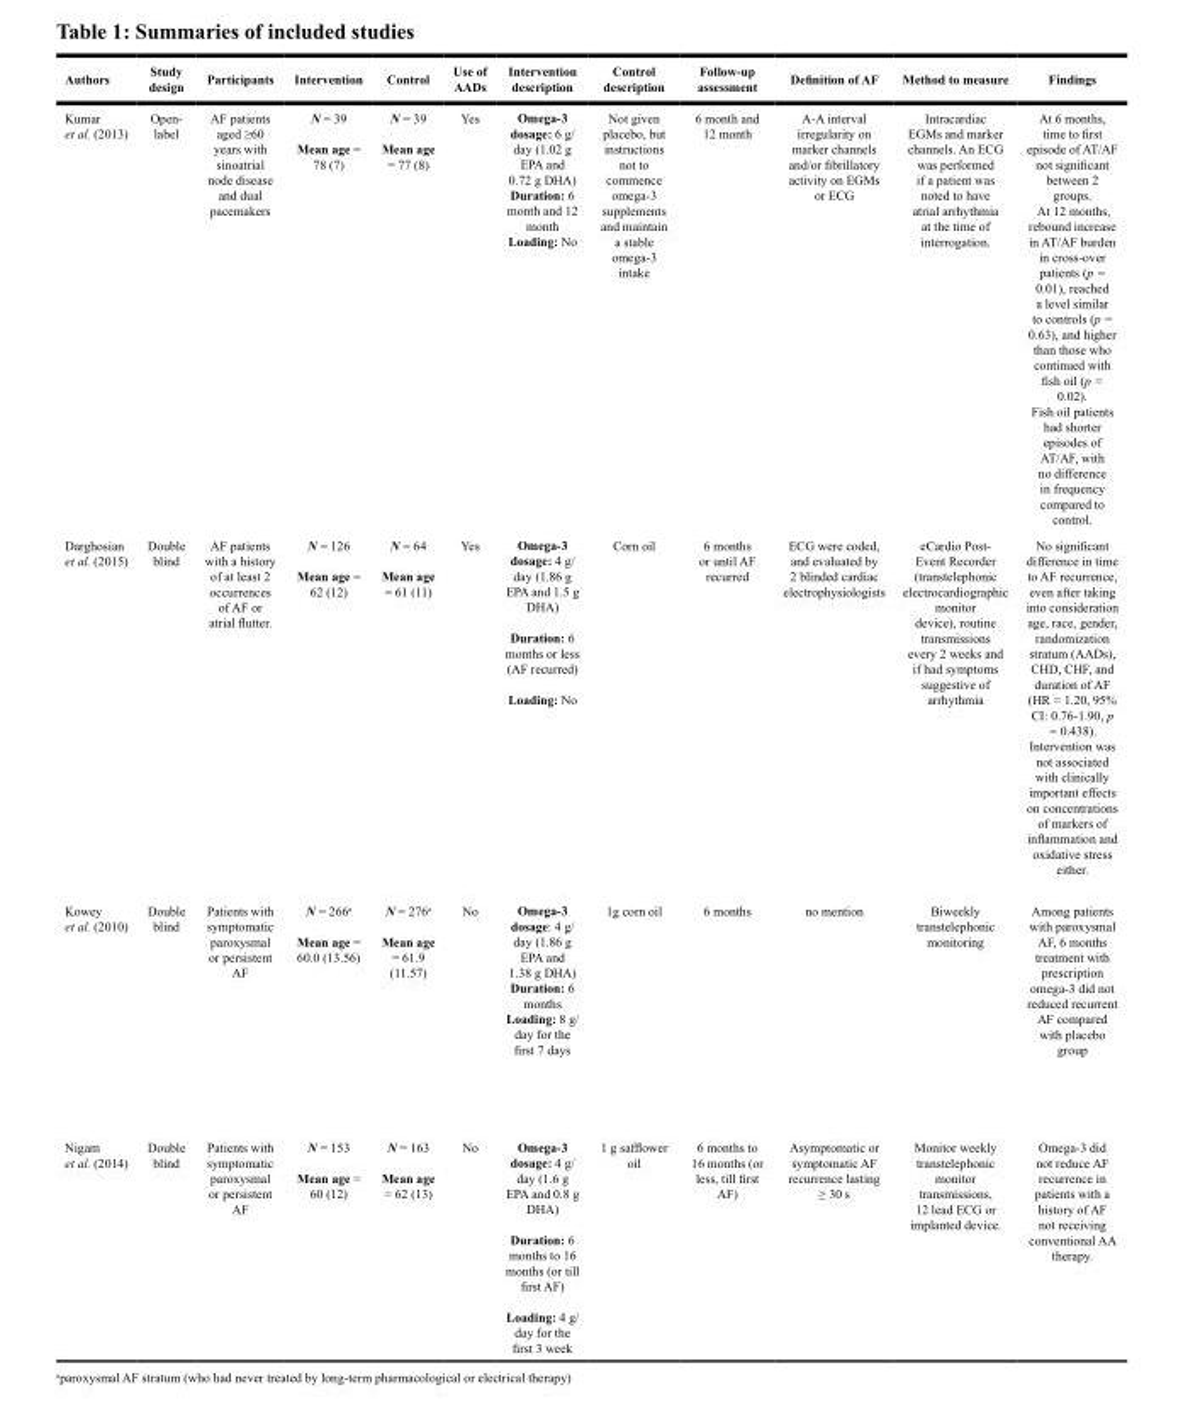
<table><thead><tr><td>Authors</td><td>Study design</td><td>Participants</td><td>Intervention</td><td>Control</td><td>Use of AADs</td><td>Intervention description</td><td>Control description</td><td>Follow-up assessment</td><td>Definition of AF</td><td>Method to measure</td><td>Findings</td></tr></thead><tbody><tr><td>Kumar et al. (2013)</td><td>Open- label</td><td>AF patients aged ≥60 years with sinoatrial node disease and dual pacemakers</td><td>N = 39 Mean age = 78 (7)</td><td>N = 39 Mean age = 77 (8)</td><td>Yes</td><td>Omega-3 dosage: 6 g/ day (1.02 g EPA and 0.72 g DHA) Duration: 6 month and 12 month Loading: No</td><td>Not given placebo, but instructions not to commence omega-3 supplements and maintain a stable omega-3 intake</td><td>6 month and 12 month</td><td>A-A interval irregularity on marker channels and/or fibrillatory activity on EGMs or ECG</td><td>Intracardiac EGMs and marker channels. An ECG was performed if a patient was noted to have atrial arrhythmia at the time of interrogation.</td><td>At 6 months, time to first episode of AT/AF not significant between 2 groups. At 12 months, rebound increase in AT/AF burden in cross-over patients (p = 0.01), reached a level similar to controls (p = 0.63), and higher than those who continued with fish oil (p = 0.02). Fish oil patients had shorter episodes of AT/AF, with no difference in frequency compared to control.</td></tr><tr><td>Darghosian et al. (2015)</td><td>Double blind</td><td>AF patients with a history of at least 2 occurrences of AF or atrial flutter.</td><td>N = 126 Mean age = 62 (12)</td><td>N = 64 Mean age = 61 (11)</td><td>Yes</td><td>Omega-3 dosage: 4 g/ day (1.86 g EPA and 1.5 g DHA) Duration: 6 months or less (AF recurred) Loading: No</td><td>Corn oil</td><td>6 months or until AF recurred</td><td>ECG were coded, and evaluated by 2 blinded cardiac electrophysiologists</td><td>eCardio Post- Event Recorder (transtelephonic electrocardiographic monitor device), routine transmissions every 2 weeks and if had symptoms suggestive of arrhythmia</td><td>No significant difference in time to AF recurrence, even after taking into consideration age, race, gender, randomization stratum (AADs), CHD, CHF, and duration of AF (HR = 1.20, 95% CI: 0.76-1.90, p = 0.438). Intervention was not associated with clinically important effects on concentrations of markers of inflammation and oxidative stress either.</td></tr><tr><td>Kowey et al. (2010)</td><td>Double blind</td><td>Patients with symptomatic paroxysmal or persistent AF</td><td>N = 266<sup>a</sup> Mean age = 60.0 (13.56)</td><td>N = 276<sup>a</sup> Mean age = 61.9 (11.57)</td><td>No</td><td>Omega-3 dosage: 4 g/ day (1.86 g EPA and 1.38 g DHA) Duration: 6 months Loading: 8 g/ day for the first 7 days</td><td>1g corn oil</td><td>6 months</td><td>no mention</td><td>Biweekly transtelephonic monitoring</td><td>Among patients with paroxysmal AF, 6 months treatment with prescription omega-3 did not reduced recurrent AF compared with placebo group</td></tr><tr><td>Nigam et al. (2014)</td><td>Double blind</td><td>Patients with symptomatic paroxysmal or persistent AF</td><td>N = 153 Mean age = 60 (12)</td><td>N = 163 Mean age = 62 (13)</td><td>No</td><td>Omega-3 dosage: 4 g/ day (1.6 g EPA and 0.8 g DHA) Duration: 6 months to 16 months (or till first AF) Loading: 4 g/ day for the first 3 week</td><td>1 g safflower oil</td><td>6 months to 16 months (or less, till first AF)</td><td>Asymptomatic or symptomatic AF recurrence lasting ≥ 30 s</td><td>Monitor weekly transtelephonic monitor transmissions, 12 lead ECG or implanted device.</td><td>Omega-3 did not reduce AF recurrence in patients with a history of AF not receiving conventional AA therapy.</td></tr></tbody></table>